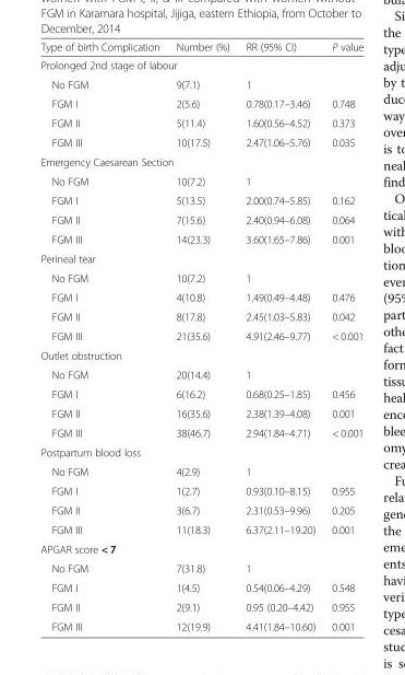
<table><thead><tr><td>Type of birth Complication</td><td>Number (%)</td><td>RR (95% CI)</td><td>P value</td></tr></thead><tbody><tr><td colspan="4">Prolonged 2nd stage of labour</td></tr><tr><td>No FGM</td><td>9(7.1)</td><td>1</td><td></td></tr><tr><td>FGM I</td><td>2(5.6)</td><td>0.78(0.17–3.46)</td><td>0.748</td></tr><tr><td>FGM II</td><td>5(11.4)</td><td>1.60(0.56–4.52)</td><td>0.373</td></tr><tr><td>FGM III</td><td>10(17.5)</td><td>2.47(1.06–5.76)</td><td>0.035</td></tr><tr><td colspan="4">Emergency Caesarean Section</td></tr><tr><td>No FGM</td><td>10(7.2)</td><td>1</td><td></td></tr><tr><td>FGM I</td><td>5(13.5)</td><td>2.00(0.74–5.85)</td><td>0.162</td></tr><tr><td>FGM II</td><td>7(15.6)</td><td>2.40(0.94–6.08)</td><td>0.064</td></tr><tr><td>FGM III</td><td>14(23.3)</td><td>3.60(1.65–7.86)</td><td>0.001</td></tr><tr><td colspan="4">Perineal tear</td></tr><tr><td>No FGM</td><td>10(7.2)</td><td>1</td><td></td></tr><tr><td>FGM I</td><td>4(10.8)</td><td>1.49(0.49–4.48)</td><td>0.476</td></tr><tr><td>FGM II</td><td>8(17.8)</td><td>2.45(1.03–5.83)</td><td>0.042</td></tr><tr><td>FGM III</td><td>21(35.6)</td><td>4.91(2.46–9.77)</td><td>&lt; 0.001</td></tr><tr><td colspan="4">Outlet obstruction</td></tr><tr><td>No FGM</td><td>20(14.4)</td><td>1</td><td></td></tr><tr><td>FGM I</td><td>6(16.2)</td><td>0.68(0.25–1.85)</td><td>0.456</td></tr><tr><td>FGM II</td><td>16(35.6)</td><td>2.38(1.39–4.08)</td><td>0.001</td></tr><tr><td>FGM III</td><td>38(46.7)</td><td>2.94(1.84–4.71)</td><td>&lt; 0.001</td></tr><tr><td colspan="4">Postpartum blood loss</td></tr><tr><td>No FGM</td><td>4(2.9)</td><td>1</td><td></td></tr><tr><td>FGM I</td><td>1(2.7)</td><td>0.93(0.10–8.15)</td><td>0.955</td></tr><tr><td>FGM II</td><td>3(6.7)</td><td>2.31(0.53–9.96)</td><td>0.205</td></tr><tr><td>FGM III</td><td>11(18.3)</td><td>6.37(2.11–19.20)</td><td>0.001</td></tr><tr><td colspan="4">APGAR score &lt; 7</td></tr><tr><td>No FGM</td><td>7(31.8)</td><td>1</td><td></td></tr><tr><td>FGM I</td><td>1(4.5)</td><td>0.54(0.06–4.29)</td><td>0.548</td></tr><tr><td>FGM II</td><td>2(9.1)</td><td>0.95 (0.20–4.42)</td><td>0.955</td></tr><tr><td>FGM III</td><td>12(19.9)</td><td>4.41(1.84–10.60)</td><td>0.001</td></tr></tbody></table>